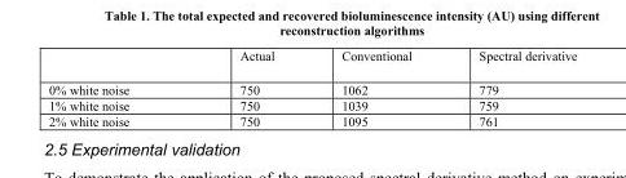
<table><thead><tr><td></td><td>Actual</td><td>Conventional</td><td>Spectral derivative</td></tr></thead><tbody><tr><td>0% white noise</td><td>750</td><td>1062</td><td>779</td></tr><tr><td>1% white noise</td><td>750</td><td>1039</td><td>759</td></tr><tr><td>2% white noise</td><td>750</td><td>1095</td><td>761</td></tr></tbody></table>